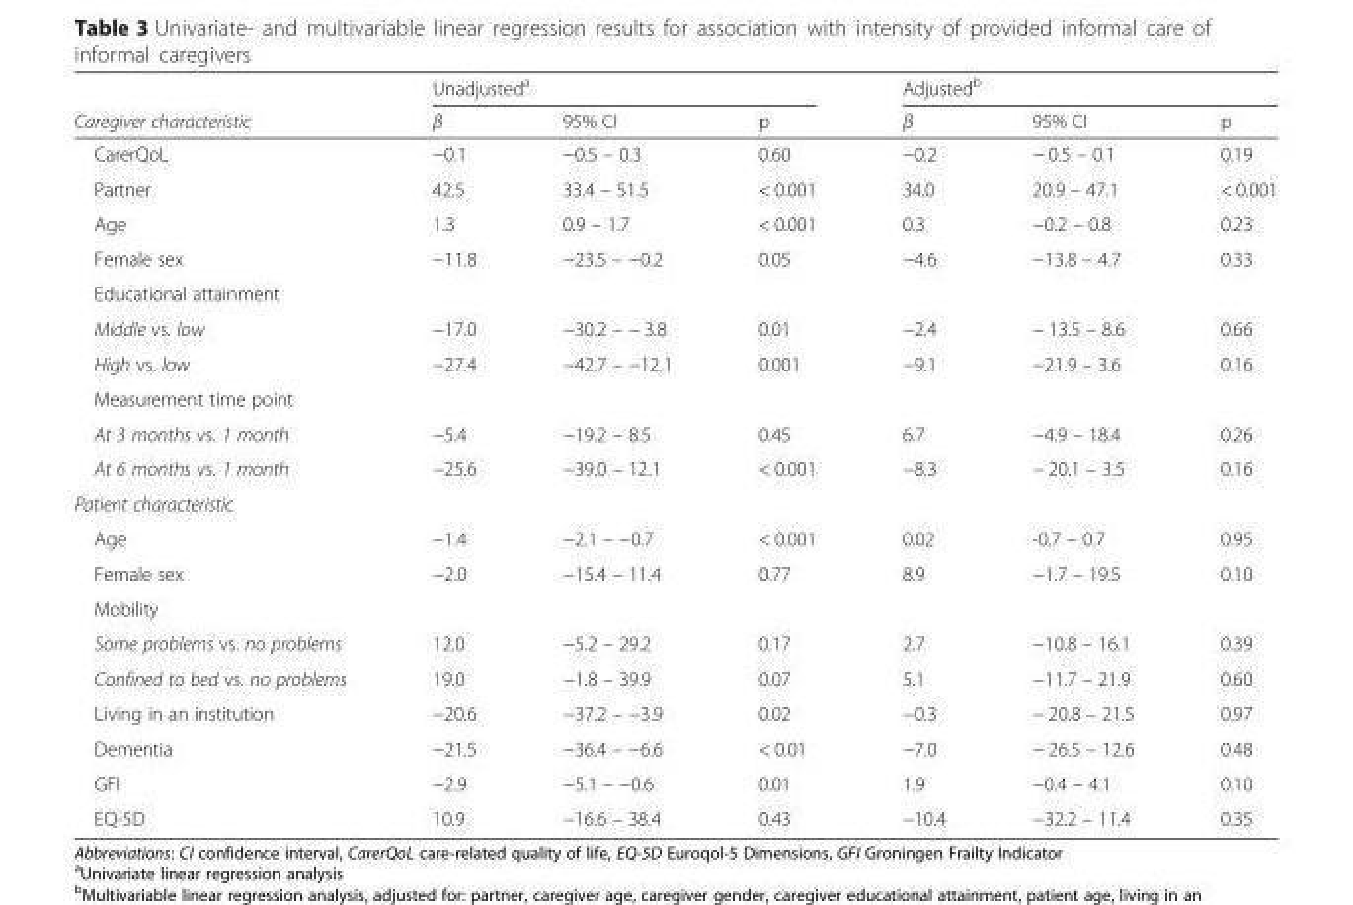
<table><thead><tr><td rowspan="2">Caregiver characteristic</td><td colspan="3">Unadjusted<sup>a</sup></td><td colspan="3">Adjusted<sup>b</sup></td></tr><tr><td>β</td><td>95% CI</td><td>p</td><td>β</td><td>95% CI</td><td>p</td></tr></thead><tbody><tr><td>CarerQoL</td><td>−0.1</td><td>−0.5 – 0.3</td><td>0.60</td><td>−0.2</td><td>− 0.5 – 0.1</td><td>0.19</td></tr><tr><td>Partner</td><td>42.5</td><td>33.4 – 51.5</td><td>&lt; 0.001</td><td>34.0</td><td>20.9 – 47.1</td><td>&lt; 0.001</td></tr><tr><td>Age</td><td>1.3</td><td>0.9 – 1.7</td><td>&lt; 0.001</td><td>0.3</td><td>−0.2 – 0.8</td><td>0.23</td></tr><tr><td>Female sex</td><td>−11.8</td><td>−23.5 – −0.2</td><td>0.05</td><td>−4.6</td><td>−13.8 – 4.7</td><td>0.33</td></tr><tr><td colspan="7">Educational attainment</td></tr><tr><td>Middle vs. low</td><td>−17.0</td><td>−30.2 – − 3.8</td><td>0.01</td><td>−2.4</td><td>− 13.5 – 8.6</td><td>0.66</td></tr><tr><td>High vs. low</td><td>−27.4</td><td>−42.7 – −12.1</td><td>0.001</td><td>−9.1</td><td>−21.9 – 3.6</td><td>0.16</td></tr><tr><td colspan="7">Measurement time point</td></tr><tr><td>At 3 months vs. 1 month</td><td>−5.4</td><td>−19.2 – 8.5</td><td>0.45</td><td>6.7</td><td>−4.9 – 18.4</td><td>0.26</td></tr><tr><td>At 6 months vs. 1 month</td><td>−25.6</td><td>−39.0 – 12.1</td><td>&lt; 0.001</td><td>−8.3</td><td>− 20.1 – 3.5</td><td>0.16</td></tr><tr><td colspan="7">Patient characteristic</td></tr><tr><td>Age</td><td>−1.4</td><td>−2.1 – −0.7</td><td>&lt; 0.001</td><td>0.02</td><td>-0.7 – 0.7</td><td>0.95</td></tr><tr><td>Female sex</td><td>−2.0</td><td>−15.4 – 11.4</td><td>0.77</td><td>8.9</td><td>−1.7 – 19.5</td><td>0.10</td></tr><tr><td colspan="7">Mobility</td></tr><tr><td>Some problems vs. no problems</td><td>12.0</td><td>−5.2 – 29.2</td><td>0.17</td><td>2.7</td><td>−10.8 – 16.1</td><td>0.39</td></tr><tr><td>Confined to bed vs. no problems</td><td>19.0</td><td>−1.8 – 39.9</td><td>0.07</td><td>5.1</td><td>−11.7 – 21.9</td><td>0.60</td></tr><tr><td>Living in an institution</td><td>−20.6</td><td>−37.2 – −3.9</td><td>0.02</td><td>−0.3</td><td>− 20.8 – 21.5</td><td>0.97</td></tr><tr><td>Dementia</td><td>−21.5</td><td>−36.4 – −6.6</td><td>&lt; 0.01</td><td>−7.0</td><td>− 26.5 – 12.6</td><td>0.48</td></tr><tr><td>GFI</td><td>−2.9</td><td>−5.1 – −0.6</td><td>0.01</td><td>1.9</td><td>−0.4 – 4.1</td><td>0.10</td></tr><tr><td>EQ-5D</td><td>10.9</td><td>−16.6 – 38.4</td><td>0.43</td><td>−10.4</td><td>−32.2 – 11.4</td><td>0.35</td></tr></tbody></table>